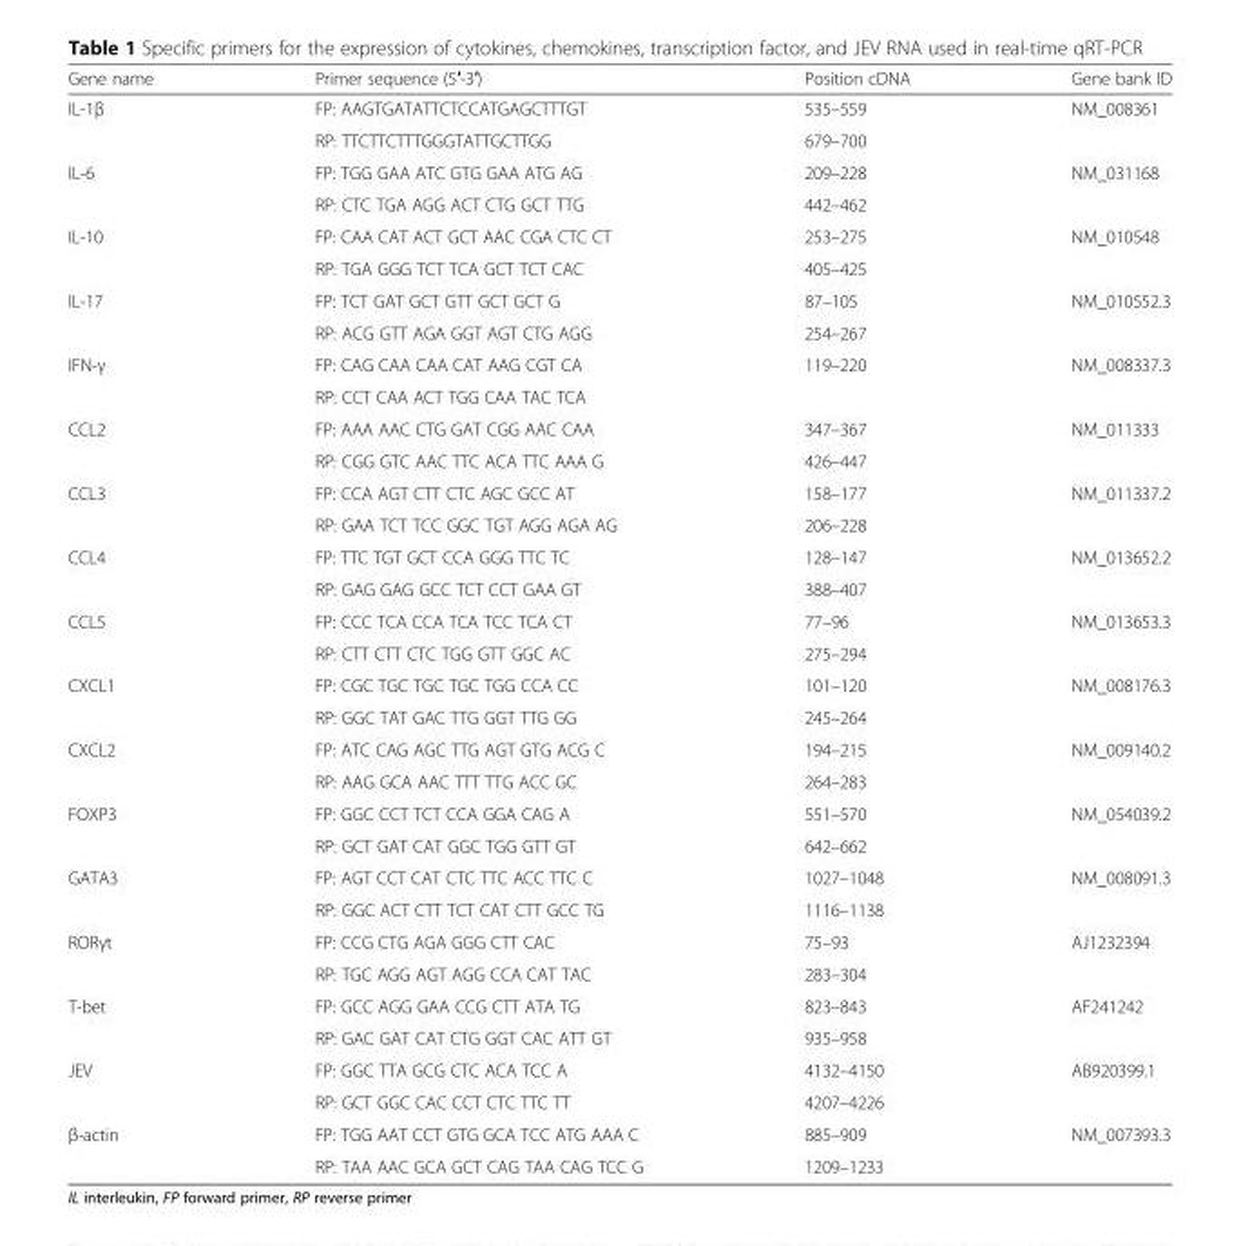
<table><thead><tr><td>Gene name</td><td>Primer sequence (5′-3′)</td><td>Position cDNA</td><td>Gene bank ID</td></tr></thead><tbody><tr><td rowspan="2">IL-1β</td><td>FP: AAGTGATATTCTCCATGAGCTTTGT</td><td>535–559</td><td rowspan="2">NM_008361</td></tr><tr><td>RP: TTCTTCTTTGGGTATTGCTTGG</td><td>679–700</td></tr><tr><td rowspan="2">IL-6</td><td>FP: TGG GAA ATC GTG GAA ATG AG</td><td>209–228</td><td rowspan="2">NM_031168</td></tr><tr><td>RP: CTC TGA AGG ACT CTG GCT TTG</td><td>442–462</td></tr><tr><td rowspan="2">IL-10</td><td>FP: CAA CAT ACT GCT AAC CGA CTC CT</td><td>253–275</td><td rowspan="2">NM_010548</td></tr><tr><td>RP: TGA GGG TCT TCA GCT TCT CAC</td><td>405–425</td></tr><tr><td rowspan="2">IL-17</td><td>FP: TCT GAT GCT GTT GCT GCT G</td><td>87–105</td><td rowspan="2">NM_010552.3</td></tr><tr><td>RP: ACG GTT AGA GGT AGT CTG AGG</td><td>254–267</td></tr><tr><td rowspan="2">IFN-γ</td><td>FP: CAG CAA CAA CAT AAG CGT CA</td><td rowspan="2">119–220</td><td rowspan="2">NM_008337.3</td></tr><tr><td>RP: CCT CAA ACT TGG CAA TAC TCA</td></tr><tr><td rowspan="2">CCL2</td><td>FP: AAA AAC CTG GAT CGG AAC CAA</td><td>347–367</td><td rowspan="2">NM_011333</td></tr><tr><td>RP: CGG GTC AAC TTC ACA TTC AAA G</td><td>426–447</td></tr><tr><td rowspan="2">CCL3</td><td>FP: CCA AGT CTT CTC AGC GCC AT</td><td>158–177</td><td rowspan="2">NM_011337.2</td></tr><tr><td>RP: GAA TCT TCC GGC TGT AGG AGA AG</td><td>206–228</td></tr><tr><td rowspan="2">CCL4</td><td>FP: TTC TGT GCT CCA GGG TTC TC</td><td>128–147</td><td rowspan="2">NM_013652.2</td></tr><tr><td>RP: GAG GAG GCC TCT CCT GAA GT</td><td>388–407</td></tr><tr><td rowspan="2">CCL5</td><td>FP: CCC TCA CCA TCA TCC TCA CT</td><td>77–96</td><td rowspan="2">NM_013653.3</td></tr><tr><td>RP: CTT CTT CTC TGG GTT GGC AC</td><td>275–294</td></tr><tr><td rowspan="2">CXCL1</td><td>FP: CGC TGC TGC TGC TGG CCA CC</td><td>101–120</td><td rowspan="2">NM_008176.3</td></tr><tr><td>RP: GGC TAT GAC TTG GGT TTG GG</td><td>245–264</td></tr><tr><td rowspan="2">CXCL2</td><td>FP: ATC CAG AGC TTG AGT GTG ACG C</td><td>194–215</td><td rowspan="2">NM_009140.2</td></tr><tr><td>RP: AAG GCA AAC TTT TTG ACC GC</td><td>264–283</td></tr><tr><td rowspan="2">FOXP3</td><td>FP: GGC CCT TCT CCA GGA CAG A</td><td>551–570</td><td rowspan="2">NM_054039.2</td></tr><tr><td>RP: GCT GAT CAT GGC TGG GTT GT</td><td>642–662</td></tr><tr><td rowspan="2">GATA3</td><td>FP: AGT CCT CAT CTC TTC ACC TTC C</td><td>1027–1048</td><td rowspan="2">NM_008091.3</td></tr><tr><td>RP: GGC ACT CTT TCT CAT CTT GCC TG</td><td>1116–1138</td></tr><tr><td rowspan="2">RORγt</td><td>FP: CCG CTG AGA GGG CTT CAC</td><td>75–93</td><td rowspan="2">AJ1232394</td></tr><tr><td>RP: TGC AGG AGT AGG CCA CAT TAC</td><td>283–304</td></tr><tr><td rowspan="2">T-bet</td><td>FP: GCC AGG GAA CCG CTT ATA TG</td><td>823–843</td><td rowspan="2">AF241242</td></tr><tr><td>RP: GAC GAT CAT CTG GGT CAC ATT GT</td><td>935–958</td></tr><tr><td rowspan="2">JEV</td><td>FP: GGC TTA GCG CTC ACA TCC A</td><td>4132–4150</td><td rowspan="2">AB920399.1</td></tr><tr><td>RP: GCT GGC CAC CCT CTC TTC TT</td><td>4207–4226</td></tr><tr><td rowspan="2">β-actin</td><td>FP: TGG AAT CCT GTG GCA TCC ATG AAA C</td><td>885–909</td><td rowspan="2">NM_007393.3</td></tr><tr><td>RP: TAA AAC GCA GCT CAG TAA CAG TCC G</td><td>1209–1233</td></tr></tbody></table>